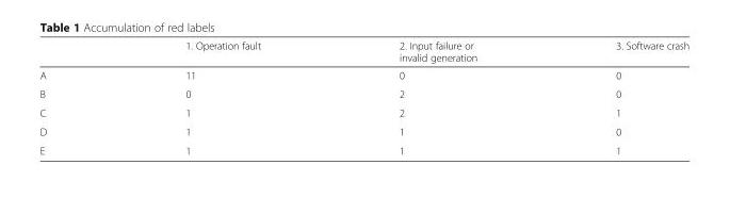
<table><thead><tr><td></td><td>1. Operation fault</td><td>2. Input failure or invalid generation</td><td>3. Software crash</td></tr></thead><tbody><tr><td>A</td><td>11</td><td>0</td><td>0</td></tr><tr><td>B</td><td>0</td><td>2</td><td>0</td></tr><tr><td>C</td><td>1</td><td>2</td><td>1</td></tr><tr><td>D</td><td>1</td><td>1</td><td>0</td></tr><tr><td>E</td><td>1</td><td>1</td><td>1</td></tr></tbody></table>